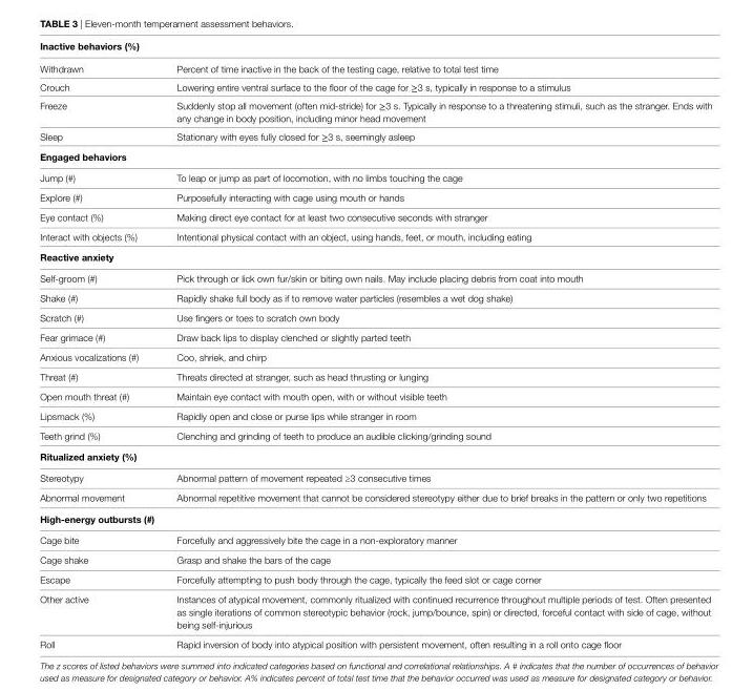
<table><tbody><tr><td colspan="2">inactive behaviors (%)</td></tr><tr><td>Withdrawn</td><td>Percent of time inactive in the back of the testing cage, relative to total test time</td></tr><tr><td>Crouch</td><td>Lowering entire ventral surface to the floor of the cage for ≥3 s, typically in response to a stimulus</td></tr><tr><td>Freeze</td><td>Suddenly stop all movement (often mid-stride) for ≥3 s. Typically in response to a threatening stimuli, such as the stranger. Ends with any change in body position, including minor head movement</td></tr><tr><td>Sleep</td><td>Stationary with eyes fully closed for ≥3 s, seemingly asleep</td></tr><tr><td colspan="2">engaged behaviors</td></tr><tr><td>Jump (#)</td><td>To leap or jump as part of locomotion, with no limbs touching the cage</td></tr><tr><td>Explore (#)</td><td>Purposefully interacting with cage using mouth or hands</td></tr><tr><td>Eye contact (%)</td><td>Making direct eye contact for at least two consecutive seconds with stranger</td></tr><tr><td>Interact with objects (%)</td><td>Intentional physical contact with an object, using hands, feet, or mouth, including eating</td></tr><tr><td colspan="2">reactive anxiety</td></tr><tr><td>Self-groom (#)</td><td>Pick through or lick own fur/skin or biting own nails. May include placing debris from coat into mouth</td></tr><tr><td>Shake (#)</td><td>Rapidly shake full body as if to remove water particles (resembles a wet dog shake)</td></tr><tr><td>Scratch (#)</td><td>Use fingers or toes to scratch own body</td></tr><tr><td>Fear grimace (#)</td><td>Draw back lips to display clenched or slightly parted teeth</td></tr><tr><td>Anxious vocalizations (#)</td><td>Coo, shriek, and chirp</td></tr><tr><td>Threat (#)</td><td>Threats directed at stranger, such as head thrusting or lunging</td></tr><tr><td>Open mouth threat (#)</td><td>Maintain eye contact with mouth open, with or without visible teeth</td></tr><tr><td>Lipsmack (%)</td><td>Rapidly open and close or purse lips while stranger in room</td></tr><tr><td>Teeth grind (%)</td><td>Clenching and grinding of teeth to produce an audible clicking/grinding sound</td></tr><tr><td colspan="2">ritualized anxiety (%)</td></tr><tr><td>Stereotypy</td><td>Abnormal pattern of movement repeated ≥3 consecutive times</td></tr><tr><td>Abnormal movement</td><td>Abnormal repetitive movement that cannot be considered stereotypy either due to brief breaks in the pattern or only two repetitions</td></tr><tr><td colspan="2">high-energy outbursts (#)</td></tr><tr><td>Cage bite</td><td>Forcefully and aggressively bite the cage in a non-exploratory manner</td></tr><tr><td>Cage shake</td><td>Grasp and shake the bars of the cage</td></tr><tr><td>Escape</td><td>Forcefully attempting to push body through the cage, typically the feed slot or cage corner</td></tr><tr><td>Other active</td><td>Instances of atypical movement, commonly ritualized with continued recurrence throughout multiple periods of test. Often presented as single iterations of common stereotypic behavior (rock, jump/bounce, spin) or directed, forceful contact with side of cage, without being self-injurious</td></tr><tr><td>Roll</td><td>Rapid inversion of body into atypical position with persistent movement, often resulting in a roll onto cage floor</td></tr></tbody></table>